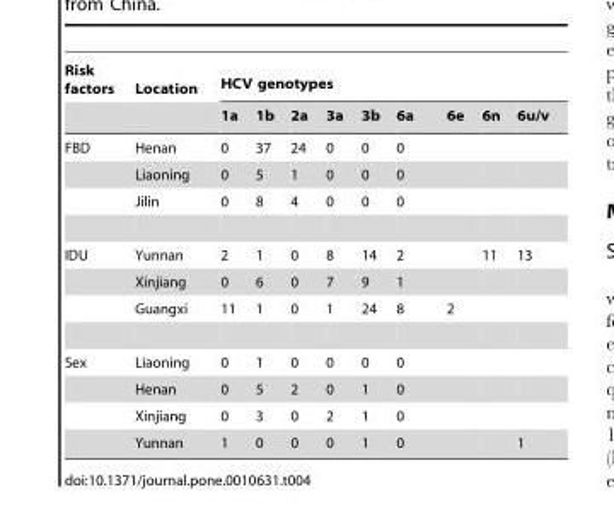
<table><thead><tr><td rowspan="2">Risk factors</td><td rowspan="2">Location</td><td colspan="9">HCV genotypes</td></tr><tr><td>1a</td><td>1b</td><td>2a</td><td>3a</td><td>3b</td><td>6a</td><td>6e</td><td>6n</td><td>6u/v</td></tr></thead><tbody><tr><td rowspan="3">FBD</td><td>Henan</td><td>0</td><td>37</td><td>24</td><td>0</td><td>0</td><td>0</td><td></td><td></td><td></td></tr><tr><td>Liaoning</td><td>0</td><td>5</td><td>1</td><td>0</td><td>0</td><td>0</td><td></td><td></td><td></td></tr><tr><td>Jilin</td><td>0</td><td>8</td><td>4</td><td>0</td><td>0</td><td>0</td><td></td><td></td><td></td></tr><tr><td rowspan="3">IDU</td><td>Yunnan</td><td>2</td><td>1</td><td>0</td><td>8</td><td>14</td><td>2</td><td></td><td>11</td><td>13</td></tr><tr><td>Xinjiang</td><td>0</td><td>6</td><td>0</td><td>7</td><td>9</td><td>1</td><td></td><td></td><td></td></tr><tr><td>Guangxi</td><td>11</td><td>1</td><td>0</td><td>1</td><td>24</td><td>8</td><td>2</td><td></td><td></td></tr><tr><td rowspan="4">Sex</td><td>Liaoning</td><td>0</td><td>1</td><td>0</td><td>0</td><td>0</td><td>0</td><td></td><td></td><td></td></tr><tr><td>Henan</td><td>0</td><td>5</td><td>2</td><td>0</td><td>1</td><td>0</td><td></td><td></td><td></td></tr><tr><td>Xinjiang</td><td>0</td><td>3</td><td>0</td><td>2</td><td>1</td><td>0</td><td></td><td></td><td></td></tr><tr><td>Yunnan</td><td>1</td><td>0</td><td>0</td><td>0</td><td>1</td><td>0</td><td></td><td></td><td>1</td></tr></tbody></table>